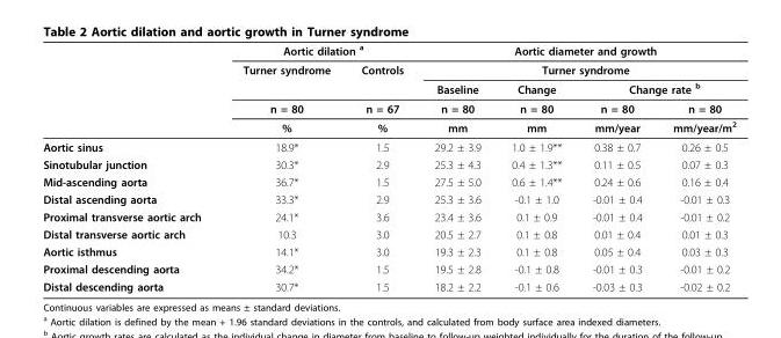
<table><thead><tr><td rowspan="5"></td><td colspan="2">Aortic dilation <sup>a</sup></td><td rowspan="2" colspan="4">Aortic diameter and growth Turner syndrome</td></tr><tr><td rowspan="4">Turner syndrome n = 80 %</td><td rowspan="4">Controls n = 67 %</td></tr><tr><td rowspan="3">Baseline n = 80 mm</td><td rowspan="3">Change n = 80 mm</td><td colspan="2">Change rate <sup>b</sup></td></tr><tr><td rowspan="2">n = 80 mm/year</td><td rowspan="2">n = 80 mm/year/m<sup>2</sup></td></tr><tr></tr></thead><tbody><tr><td>Aortic sinus</td><td>18.9*</td><td>1.5</td><td>29.2 ± 3.9</td><td>1.0 ± 1.9**</td><td>0.38 ± 0.7</td><td>0.26 ± 0.5</td></tr><tr><td>Sinotubular junction</td><td>30.3*</td><td>2.9</td><td>25.3 ± 4.3</td><td>0.4 ± 1.3**</td><td>0.11 ± 0.5</td><td>0.07 ± 0.3</td></tr><tr><td>Mid-ascending aorta</td><td>36.7*</td><td>1.5</td><td>27.5 ± 5.0</td><td>0.6 ± 1.4**</td><td>0.24 ± 0.6</td><td>0.16 ± 0.4</td></tr><tr><td>Distal ascending aorta</td><td>33.3*</td><td>2.9</td><td>25.3 ± 3.6</td><td>-0.1 ± 1.0</td><td>-0.01 ± 0.4</td><td>-0.01 ± 0.3</td></tr><tr><td>Proximal transverse aortic arch</td><td>24.1*</td><td>3.6</td><td>23.4 ± 3.6</td><td>0.1 ± 0.9</td><td>-0.01 ± 0.4</td><td>-0.01 ± 0.2</td></tr><tr><td>Distal transverse aortic arch</td><td>10.3</td><td>3.0</td><td>20.5 ± 2.7</td><td>0.1 ± 0.8</td><td>0.01 ± 0.4</td><td>0.01 ± 0.3</td></tr><tr><td>Aortic isthmus</td><td>14.1*</td><td>3.0</td><td>19.3 ± 2.3</td><td>0.1 ± 0.8</td><td>0.05 ± 0.4</td><td>0.03 ± 0.3</td></tr><tr><td>Proximal descending aorta</td><td>34.2*</td><td>1.5</td><td>19.5 ± 2.8</td><td>-0.1 ± 0.8</td><td>-0.01 ± 0.3</td><td>-0.01 ± 0.2</td></tr><tr><td>Distal descending aorta</td><td>30.7*</td><td>1.5</td><td>18.2 ± 2.2</td><td>-0.1 ± 0.6</td><td>-0.03 ± 0.3</td><td>-0.02 ± 0.2</td></tr></tbody></table>